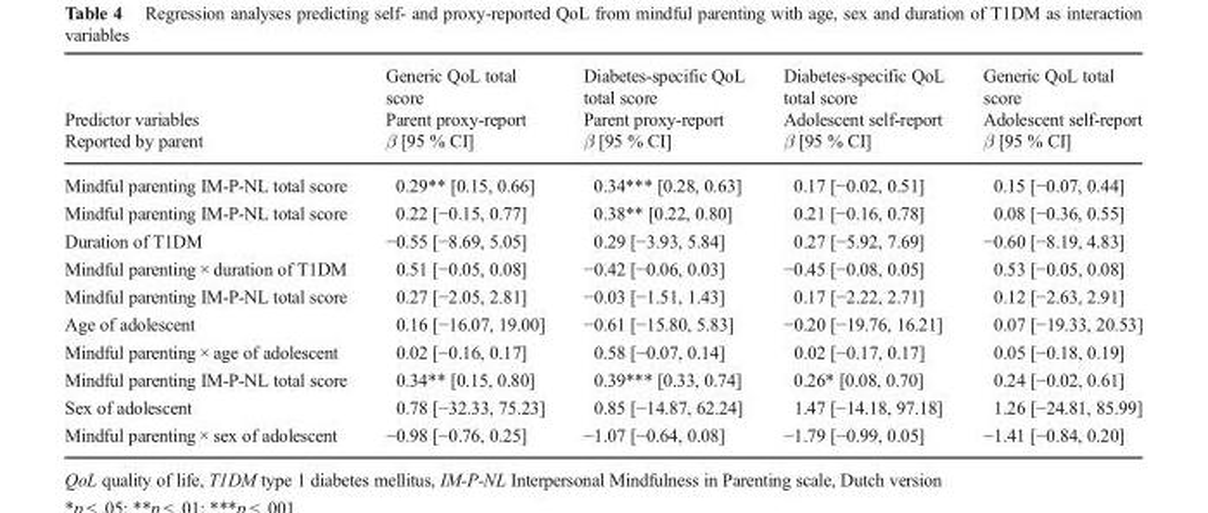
<table><thead><tr><td rowspan="3">Predictor variables Reported by parent</td><td rowspan="3">Generic QoL total score Parent proxy-report β [95 % CI]</td><td rowspan="3">Diabetes-specific QoL total score Parent proxy-report β [95 % CI]</td><td rowspan="3">Diabetes-specific QoL total score Adolescent self-report β [95 % CI]</td><td rowspan="3">Generic QoL total score Adolescent self-report β [95 % CI]</td></tr><tr></tr><tr></tr></thead><tbody><tr><td>Mindful parenting IM-P-NL total score</td><td>0.29** [0.15, 0.66]</td><td>0.34*** [0.28, 0.63]</td><td>0.17 [−0.02, 0.51]</td><td>0.15 [−0.07, 0.44]</td></tr><tr><td>Mindful parenting IM-P-NL total score</td><td>0.22 [−0.15, 0.77]</td><td>0.38** [0.22, 0.80]</td><td>0.21 [−0.16, 0.78]</td><td>0.08 [−0.36, 0.55]</td></tr><tr><td>Duration of T1DM</td><td>−0.55 [−8.69, 5.05]</td><td>0.29 [−3.93, 5.84]</td><td>0.27 [−5.92, 7.69]</td><td>−0.60 [−8.19, 4.83]</td></tr><tr><td>Mindful parenting × duration of T1DM</td><td>0.51 [−0.05, 0.08]</td><td>−0.42 [−0.06, 0.03]</td><td>−0.45 [−0.08, 0.05]</td><td>0.53 [−0.05, 0.08]</td></tr><tr><td>Mindful parenting IM-P-NL total score</td><td>0.27 [−2.05, 2.81]</td><td>−0.03 [−1.51, 1.43]</td><td>0.17 [−2.22, 2.71]</td><td>0.12 [−2.63, 2.91]</td></tr><tr><td>Age of adolescent</td><td>0.16 [−16.07, 19.00]</td><td>−0.61 [−15.80, 5.83]</td><td>−0.20 [−19.76, 16.21]</td><td>0.07 [−19.33, 20.53]</td></tr><tr><td>Mindful parenting × age of adolescent</td><td>0.02 [−0.16, 0.17]</td><td>0.58 [−0.07, 0.14]</td><td>0.02 [−0.17, 0.17]</td><td>0.05 [−0.18, 0.19]</td></tr><tr><td>Mindful parenting IM-P-NL total score</td><td>0.34** [0.15, 0.80]</td><td>0.39*** [0.33, 0.74]</td><td>0.26* [0.08, 0.70]</td><td>0.24 [−0.02, 0.61]</td></tr><tr><td>Sex of adolescent</td><td>0.78 [−32.33, 75.23]</td><td>0.85 [−14.87, 62.24]</td><td>1.47 [−14.18, 97.18]</td><td>1.26 [−24.81, 85.99]</td></tr><tr><td>Mindful parenting × sex of adolescent</td><td>−0.98 [−0.76, 0.25]</td><td>−1.07 [−0.64, 0.08]</td><td>−1.79 [−0.99, 0.05]</td><td>−1.41 [−0.84, 0.20]</td></tr></tbody></table>